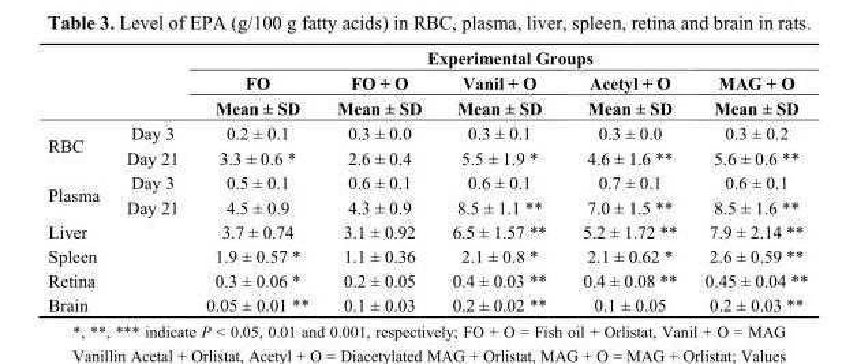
<table><thead><tr><td rowspan="3"></td><td rowspan="3"></td><td rowspan="3">FO Mean ± SD</td><td colspan="3">Experimental Groups</td><td rowspan="3">MAG + O Mean ± SD</td></tr><tr><td rowspan="2">FO + O Mean ± SD</td><td rowspan="2">Vanil + O Mean ± SD</td><td rowspan="2">Acetyl + O Mean ± SD</td></tr><tr></tr></thead><tbody><tr><td rowspan="2">RBC</td><td>Day 3</td><td>0.2 ± 0.1</td><td>0.3 ± 0.0</td><td>0.3 ± 0.1</td><td>0.3 ± 0.0</td><td>0.3 ± 0.2</td></tr><tr><td>Day 21</td><td>3.3 ± 0.6 *</td><td>2.6 ± 0.4</td><td>5.5 ± 1.9 *</td><td>4.6 ± 1.6 **</td><td>5.6 ± 0.6 **</td></tr><tr><td rowspan="2">Plasma</td><td>Day 3</td><td>0.5 ± 0.1</td><td>0.6 ± 0.1</td><td>0.6 ± 0.1</td><td>0.7 ± 0.1</td><td>0.6 ± 0.1</td></tr><tr><td>Day 21</td><td>4.5 ± 0.9</td><td>4.3 ± 0.9</td><td>8.5 ± 1.1 **</td><td>7.0 ± 1.5 **</td><td>8.5 ± 1.6 **</td></tr><tr><td>Liver</td><td></td><td>3.7 ± 0.74</td><td>3.1 ± 0.92</td><td>6.5 ± 1.57 **</td><td>5.2 ± 1.72 **</td><td>7.9 ± 2.14 **</td></tr><tr><td>Spleen</td><td></td><td>1.9 ± 0.57 *</td><td>1.1 ± 0.36</td><td>2.1 ± 0.8 *</td><td>2.1 ± 0.62 *</td><td>2.6 ± 0.59 **</td></tr><tr><td>Retina</td><td></td><td>0.3 ± 0.06 *</td><td>0.2 ± 0.05</td><td>0.4 ± 0.03 **</td><td>0.4 ± 0.08 **</td><td>0.45 ± 0.04 **</td></tr><tr><td>Brain</td><td></td><td>0.05 ± 0.01 **</td><td>0.1 ± 0.03</td><td>0.2 ± 0.02 **</td><td>0.1 ± 0.05</td><td>0.2 ± 0.03 **</td></tr></tbody></table>